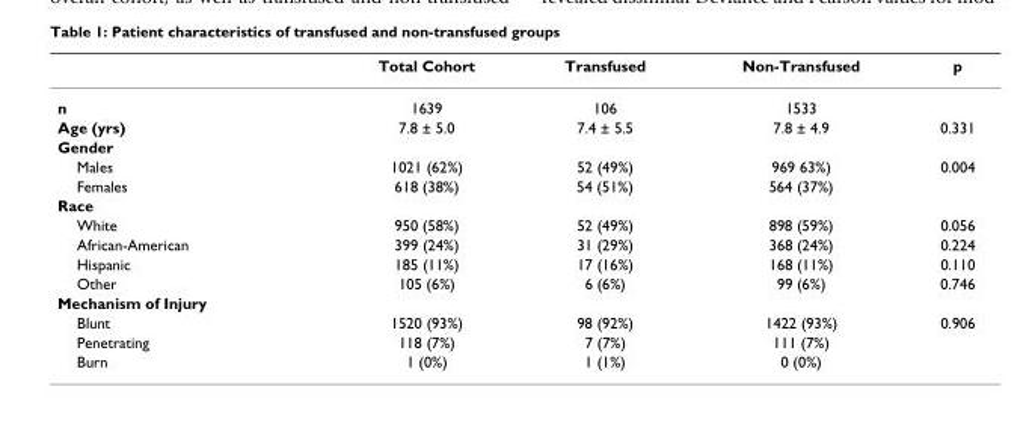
<table><thead><tr><td></td><td>Total Cohort</td><td>Transfused</td><td>Non-Transfused</td><td>p</td></tr></thead><tbody><tr><td>n</td><td>1639</td><td>106</td><td>1533</td><td></td></tr><tr><td>Age (yrs)</td><td>7.8 ± 5.0</td><td>7.4 ± 5.5</td><td>7.8 ± 4.9</td><td>0.331</td></tr><tr><td colspan="5">Gender</td></tr><tr><td>Males</td><td>1021 (62%)</td><td>52 (49%)</td><td>969 63%)</td><td>0.004</td></tr><tr><td>Females</td><td>618 (38%)</td><td>54 (51%)</td><td>564 (37%)</td><td></td></tr><tr><td colspan="5">Race</td></tr><tr><td>White</td><td>950 (58%)</td><td>52 (49%)</td><td>898 (59%)</td><td>0.056</td></tr><tr><td>African-American</td><td>399 (24%)</td><td>31 (29%)</td><td>368 (24%)</td><td>0.224</td></tr><tr><td>Hispanic</td><td>185 (11%)</td><td>17 (16%)</td><td>168 (11%)</td><td>0.110</td></tr><tr><td>Other</td><td>105 (6%)</td><td>6 (6%)</td><td>99 (6%)</td><td>0.746</td></tr><tr><td colspan="5">Mechanism of Injury</td></tr><tr><td>Blunt</td><td>1520 (93%)</td><td>98 (92%)</td><td>1422 (93%)</td><td>0.906</td></tr><tr><td>Penetrating</td><td>118 (7%)</td><td>7 (7%)</td><td>111 (7%)</td><td></td></tr><tr><td>Burn</td><td>1 (0%)</td><td>1 (1%)</td><td>0 (0%)</td><td></td></tr></tbody></table>